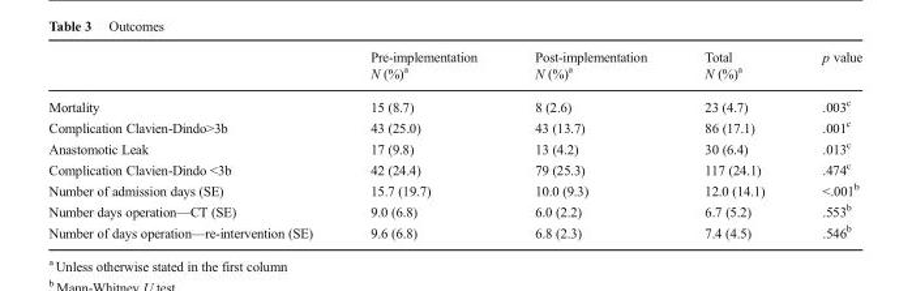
<table><thead><tr><td></td><td>Pre-implementation N (%)<sup>a</sup></td><td>Post-implementation N (%)<sup>a</sup></td><td>Total N (%)<sup>a</sup></td><td>p value</td></tr></thead><tbody><tr><td>Mortality</td><td>15 (8.7)</td><td>8 (2.6)</td><td>23 (4.7)</td><td>.003<sup>c</sup></td></tr><tr><td>Complication Clavien-Dindo&gt;3b</td><td>43 (25.0)</td><td>43 (13.7)</td><td>86 (17.1)</td><td>.001<sup>c</sup></td></tr><tr><td>Anastomotic Leak</td><td>17 (9.8)</td><td>13 (4.2)</td><td>30 (6.4)</td><td>.013<sup>c</sup></td></tr><tr><td>Complication Clavien-Dindo &lt;3b</td><td>42 (24.4)</td><td>79 (25.3)</td><td>117 (24.1)</td><td>.474<sup>c</sup></td></tr><tr><td>Number of admission days (SE)</td><td>15.7 (19.7)</td><td>10.0 (9.3)</td><td>12.0 (14.1)</td><td>&lt;.001<sup>b</sup></td></tr><tr><td>Number days operation—CT (SE)</td><td>9.0 (6.8)</td><td>6.0 (2.2)</td><td>6.7 (5.2)</td><td>.553<sup>b</sup></td></tr><tr><td>Number of days operation—re-intervention (SE)</td><td>9.6 (6.8)</td><td>6.8 (2.3)</td><td>7.4 (4.5)</td><td>.546<sup>b</sup></td></tr></tbody></table>